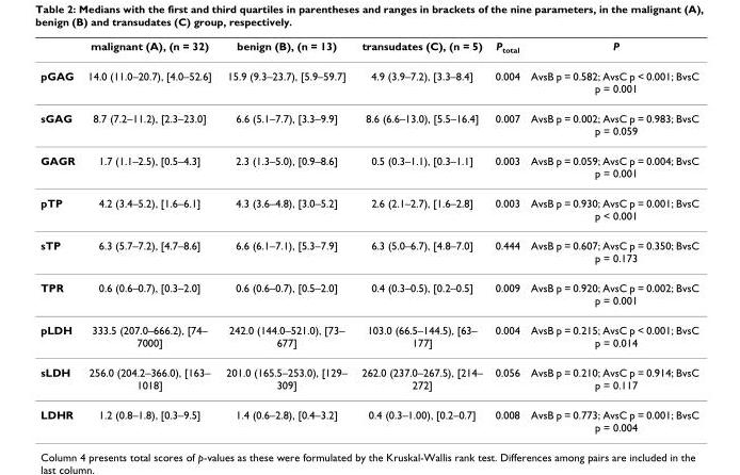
<table><thead><tr><td></td><td>malignant (A), (n = 32)</td><td>benign (B), (n = 13)</td><td>transudates (C), (n = 5)</td><td>P<sub>total</sub></td><td>P</td></tr></thead><tbody><tr><td>pGAG</td><td>14.0 (11.0–20.7), [4.0–52.6]</td><td>15.9 (9.3–23.7), [5.9–59.7]</td><td>4.9 (3.9–7.2), [3.3–8.4]</td><td>0.004</td><td>AvsB p = 0.582; AvsC p &lt; 0.001; BvsC p = 0.001</td></tr><tr><td>sGAG</td><td>8.7 (7.2–11.2), [2.3–23.0]</td><td>6.6 (5.1–7.7), [3.3–9.9]</td><td>8.6 (6.6–13.0), [5.5–16.4]</td><td>0.007</td><td>AvsB p = 0.002; AvsC p = 0.983; BvsC p = 0.059</td></tr><tr><td>GAGR</td><td>1.7 (1.1–2.5), [0.5–4.3]</td><td>2.3 (1.3–5.0), [0.9–8.6]</td><td>0.5 (0.3–1.1), [0.3–1.1]</td><td>0.003</td><td>AvsB p = 0.059; AvsC p = 0.004; BvsC p = 0.001</td></tr><tr><td>pTP</td><td>4.2 (3.4–5.2), [1.6–6.1]</td><td>4.3 (3.6–4.8), [3.0–5.2]</td><td>2.6 (2.1–2.7), [1.6–2.8]</td><td>0.003</td><td>AvsB p = 0.930; AvsC p = 0.001; BvsC p &lt; 0.001</td></tr><tr><td>sTP</td><td>6.3 (5.7–7.2), [4.7–8.6]</td><td>6.6 (6.1–7.1), [5.3–7.9]</td><td>6.3 (5.0–6.7), [4.8–7.0]</td><td>0.444</td><td>AvsB p = 0.607; AvsC p = 0.350; BvsC p = 0.173</td></tr><tr><td>TPR</td><td>0.6 (0.6–0.7), [0.3–2.0]</td><td>0.6 (0.6–0.7), [0.5–2.0]</td><td>0.4 (0.3–0.5), [0.2–0.5]</td><td>0.009</td><td>AvsB p = 0.920; AvsC p = 0.002; BvsC p = 0.001</td></tr><tr><td>pLDH</td><td>333.5 (207.0–666.2), [74– 7000]</td><td>242.0 (144.0–521.0), [73– 677]</td><td>103.0 (66.5–144.5), [63– 177]</td><td>0.004</td><td>AvsB p = 0.215; AvsC p &lt; 0.001; BvsC p = 0.014</td></tr><tr><td>sLDH</td><td>256.0 (204.2–366.0), [163– 1018]</td><td>201.0 (165.5–253.0), [129– 309]</td><td>262.0 (237.0–267.5), [214– 272]</td><td>0.056</td><td>AvsB p = 0.210; AvsC p = 0.914; BvsC p = 0.117</td></tr><tr><td>LDHR</td><td>1.2 (0.8–1.8), [0.3–9.5]</td><td>1.4 (0.6–2.8), [0.4–3.2]</td><td>0.4 (0.3–1.00), [0.2–0.7]</td><td>0.008</td><td>AvsB p = 0.773; AvsC p = 0.001; BvsC p = 0.004</td></tr></tbody></table>